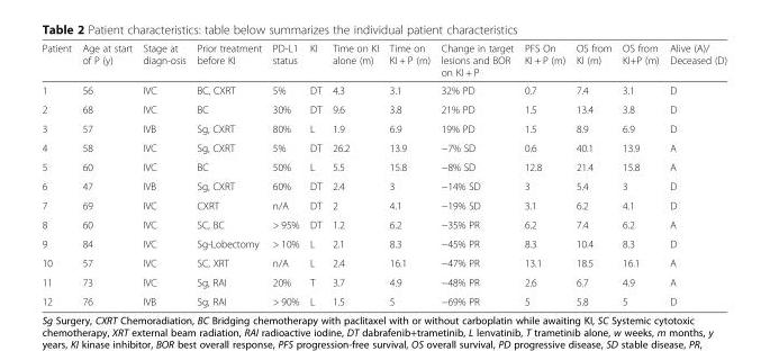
<table><thead><tr><td>Patient</td><td>Age at start of P (y)</td><td>Stage at diagn-osis</td><td>Prior treatment before KI</td><td>PD-L1 status</td><td>KI</td><td>Time on KI alone (m)</td><td>Time on KI + P (m)</td><td>Change in target lesions and BOR on KI + P</td><td>PFS On KI + P (m)</td><td>OS from KI (m)</td><td>OS from KI+P (m)</td><td>Alive (A)/ Deceased (D)</td></tr></thead><tbody><tr><td>1</td><td>56</td><td>IVC</td><td>BC, CXRT</td><td>5%</td><td>DT</td><td>4.3</td><td>3.1</td><td>32% PD</td><td>0.7</td><td>7.4</td><td>3.1</td><td>D</td></tr><tr><td>2</td><td>68</td><td>IVC</td><td>BC</td><td>30%</td><td>DT</td><td>9.6</td><td>3.8</td><td>21% PD</td><td>1.5</td><td>13.4</td><td>3.8</td><td>D</td></tr><tr><td>3</td><td>57</td><td>IVB</td><td>Sg, CXRT</td><td>80%</td><td>L</td><td>1.9</td><td>6.9</td><td>19% PD</td><td>1.5</td><td>8.9</td><td>6.9</td><td>D</td></tr><tr><td>4</td><td>58</td><td>IVC</td><td>Sg, CXRT</td><td>5%</td><td>DT</td><td>26.2</td><td>13.9</td><td>−7% SD</td><td>0.6</td><td>40.1</td><td>13.9</td><td>A</td></tr><tr><td>5</td><td>60</td><td>IVC</td><td>BC</td><td>50%</td><td>L</td><td>5.5</td><td>15.8</td><td>−8% SD</td><td>12.8</td><td>21.4</td><td>15.8</td><td>A</td></tr><tr><td>6</td><td>47</td><td>IVB</td><td>Sg, CXRT</td><td>60%</td><td>DT</td><td>2.4</td><td>3</td><td>−14% SD</td><td>3</td><td>5.4</td><td>3</td><td>D</td></tr><tr><td>7</td><td>69</td><td>IVC</td><td>CXRT</td><td>n/A</td><td>DT</td><td>2</td><td>4.1</td><td>−19% SD</td><td>3.1</td><td>6.2</td><td>4.1</td><td>D</td></tr><tr><td>8</td><td>60</td><td>IVC</td><td>SC, BC</td><td>&gt; 95%</td><td>DT</td><td>1.2</td><td>6.2</td><td>−35% PR</td><td>6.2</td><td>7.4</td><td>6.2</td><td>A</td></tr><tr><td>9</td><td>84</td><td>IVC</td><td>Sg-Lobectomy</td><td>&gt; 10%</td><td>L</td><td>2.1</td><td>8.3</td><td>−45% PR</td><td>8.3</td><td>10.4</td><td>8.3</td><td>D</td></tr><tr><td>10</td><td>57</td><td>IVC</td><td>SC, XRT</td><td>n/A</td><td>L</td><td>2.4</td><td>16.1</td><td>−47% PR</td><td>13.1</td><td>18.5</td><td>16.1</td><td>A</td></tr><tr><td>11</td><td>73</td><td>IVC</td><td>Sg, RAI</td><td>20%</td><td>T</td><td>3.7</td><td>4.9</td><td>−48% PR</td><td>2.6</td><td>6.7</td><td>4.9</td><td>A</td></tr><tr><td>12</td><td>76</td><td>IVB</td><td>Sg, RAI</td><td>&gt; 90%</td><td>L</td><td>1.5</td><td>5</td><td>−69% PR</td><td>5</td><td>5.8</td><td>5</td><td>D</td></tr></tbody></table>